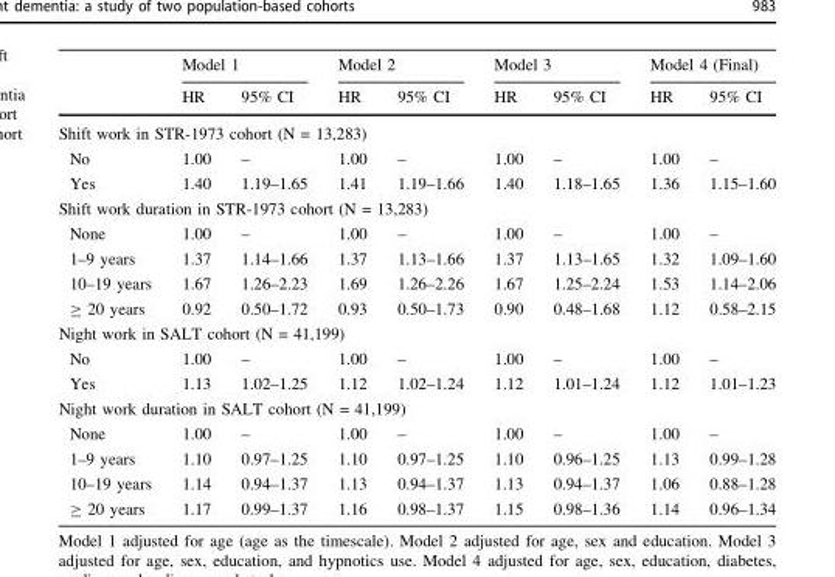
<table><thead><tr><td rowspan="2"></td><td colspan="2">Model 1</td><td colspan="2">Model 2</td><td colspan="2">Model 3</td><td colspan="2">Model 4 (Final)</td></tr><tr><td>HR</td><td>95% CI</td><td>HR</td><td>95% CI</td><td>HR</td><td>95% CI</td><td>HR</td><td>95% CI</td></tr></thead><tbody><tr><td colspan="9">Shift work in STR-1973 cohort (N = 13,283)</td></tr><tr><td>No</td><td>1.00</td><td>–</td><td>1.00</td><td>–</td><td>1.00</td><td>–</td><td>1.00</td><td>–</td></tr><tr><td>Yes</td><td>1.40</td><td>1.19–1.65</td><td>1.41</td><td>1.19–1.66</td><td>1.40</td><td>1.18–1.65</td><td>1.36</td><td>1.15–1.60</td></tr><tr><td colspan="9">Shift work duration in STR-1973 cohort (N = 13,283)</td></tr><tr><td>None</td><td>1.00</td><td>–</td><td>1.00</td><td>–</td><td>1.00</td><td>–</td><td>1.00</td><td>–</td></tr><tr><td>1–9 years</td><td>1.37</td><td>1.14–1.66</td><td>1.37</td><td>1.13–1.66</td><td>1.37</td><td>1.13–1.65</td><td>1.32</td><td>1.09–1.60</td></tr><tr><td>10–19 years</td><td>1.67</td><td>1.26–2.23</td><td>1.69</td><td>1.26–2.26</td><td>1.67</td><td>1.25–2.24</td><td>1.53</td><td>1.14–2.06</td></tr><tr><td>≥ 20 years</td><td>0.92</td><td>0.50–1.72</td><td>0.93</td><td>0.50–1.73</td><td>0.90</td><td>0.48–1.68</td><td>1.12</td><td>0.58–2.15</td></tr><tr><td colspan="9">Night work in SALT cohort (N = 41,199)</td></tr><tr><td>No</td><td>1.00</td><td>–</td><td>1.00</td><td>–</td><td>1.00</td><td>–</td><td>1.00</td><td>–</td></tr><tr><td>Yes</td><td>1.13</td><td>1.02–1.25</td><td>1.12</td><td>1.02–1.24</td><td>1.12</td><td>1.01–1.24</td><td>1.12</td><td>1.01–1.23</td></tr><tr><td colspan="9">Night work duration in SALT cohort (N = 41,199)</td></tr><tr><td>None</td><td>1.00</td><td>–</td><td>1.00</td><td>–</td><td>1.00</td><td>–</td><td>1.00</td><td>–</td></tr><tr><td>1–9 years</td><td>1.10</td><td>0.97–1.25</td><td>1.10</td><td>0.97–1.25</td><td>1.10</td><td>0.96–1.25</td><td>1.13</td><td>0.99–1.28</td></tr><tr><td>10–19 years</td><td>1.14</td><td>0.94–1.37</td><td>1.13</td><td>0.94–1.37</td><td>1.13</td><td>0.94–1.37</td><td>1.06</td><td>0.88–1.28</td></tr><tr><td>≥ 20 years</td><td>1.17</td><td>0.99–1.37</td><td>1.16</td><td>0.98–1.37</td><td>1.15</td><td>0.98–1.36</td><td>1.14</td><td>0.96–1.34</td></tr></tbody></table>